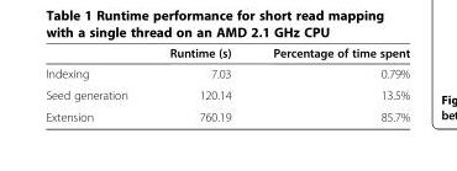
<table><thead><tr><td></td><td>Runtime (s)</td><td>Percentage of time spent</td></tr></thead><tbody><tr><td>Indexing</td><td>7.03</td><td>0.79%</td></tr><tr><td>Seed generation</td><td>120.14</td><td>13.5%</td></tr><tr><td>Extension</td><td>760.19</td><td>85.7%</td></tr></tbody></table>